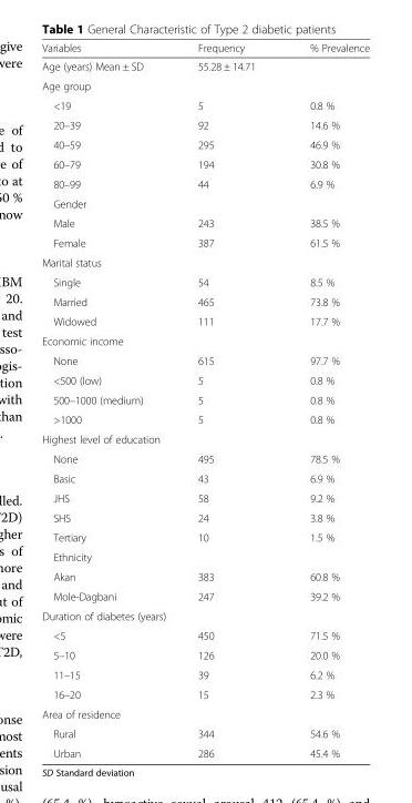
<table><thead><tr><td>Variables</td><td>Frequency</td><td>% Prevalence</td></tr></thead><tbody><tr><td>Age (years) Mean ± SD</td><td>55.28 ± 14.71</td><td></td></tr><tr><td colspan="3">Age group</td></tr><tr><td>&lt;19</td><td>5</td><td>0.8 %</td></tr><tr><td>20–39</td><td>92</td><td>14.6 %</td></tr><tr><td>40–59</td><td>295</td><td>46.9 %</td></tr><tr><td>60–79</td><td>194</td><td>30.8 %</td></tr><tr><td>80–99</td><td>44</td><td>6.9 %</td></tr><tr><td colspan="3">Gender</td></tr><tr><td>Male</td><td>243</td><td>38.5 %</td></tr><tr><td>Female</td><td>387</td><td>61.5 %</td></tr><tr><td colspan="3">Marital status</td></tr><tr><td>Single</td><td>54</td><td>8.5 %</td></tr><tr><td>Married</td><td>465</td><td>73.8 %</td></tr><tr><td>Widowed</td><td>111</td><td>17.7 %</td></tr><tr><td colspan="3">Economic income</td></tr><tr><td>None</td><td>615</td><td>97.7 %</td></tr><tr><td>&lt;500 (low)</td><td>5</td><td>0.8 %</td></tr><tr><td>500–1000 (medium)</td><td>5</td><td>0.8 %</td></tr><tr><td>&gt;1000</td><td>5</td><td>0.8 %</td></tr><tr><td colspan="3">Highest level of education</td></tr><tr><td>None</td><td>495</td><td>78.5 %</td></tr><tr><td>Basic</td><td>43</td><td>6.9 %</td></tr><tr><td>JHS</td><td>58</td><td>9.2 %</td></tr><tr><td>SHS</td><td>24</td><td>3.8 %</td></tr><tr><td>Tertiary</td><td>10</td><td>1.5 %</td></tr><tr><td colspan="3">Ethnicity</td></tr><tr><td>Akan</td><td>383</td><td>60.8 %</td></tr><tr><td>Mole-Dagbani</td><td>247</td><td>39.2 %</td></tr><tr><td colspan="3">Duration of diabetes (years)</td></tr><tr><td>&lt;5</td><td>450</td><td>71.5 %</td></tr><tr><td>5–10</td><td>126</td><td>20.0 %</td></tr><tr><td>11–15</td><td>39</td><td>6.2 %</td></tr><tr><td>16–20</td><td>15</td><td>2.3 %</td></tr><tr><td colspan="3">Area of residence</td></tr><tr><td>Rural</td><td>344</td><td>54.6 %</td></tr><tr><td>Urban</td><td>286</td><td>45.4 %</td></tr></tbody></table>